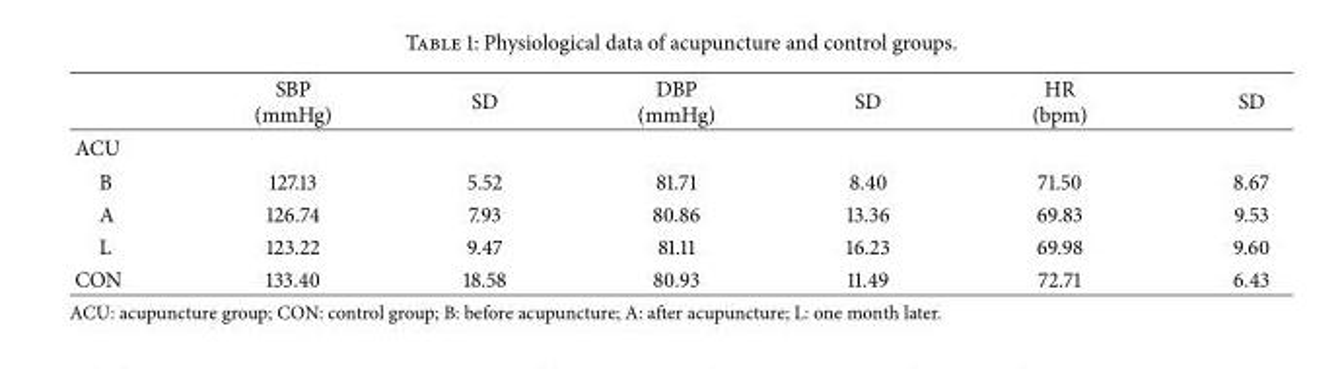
<table><thead><tr><td></td><td>SBP (mmHg)</td><td>SD</td><td>DBP (mmHg)</td><td>SD</td><td>HR (bpm)</td><td>SD</td></tr></thead><tbody><tr><td colspan="7">ACU</td></tr><tr><td>B</td><td>127.13</td><td>5.52</td><td>81.71</td><td>8.40</td><td>71.50</td><td>8.67</td></tr><tr><td>A</td><td>126.74</td><td>7.93</td><td>80.86</td><td>13.36</td><td>69.83</td><td>9.53</td></tr><tr><td>L</td><td>123.22</td><td>9.47</td><td>81.11</td><td>16.23</td><td>69.98</td><td>9.60</td></tr><tr><td>CON</td><td>133.40</td><td>18.58</td><td>80.93</td><td>11.49</td><td>72.71</td><td>6.43</td></tr></tbody></table>